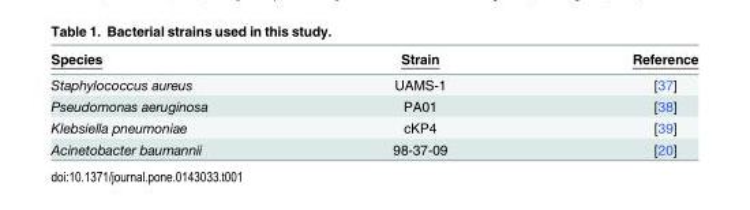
<table><thead><tr><td>Species</td><td>Strain</td><td>Reference</td></tr></thead><tbody><tr><td>Staphylococcus aureus</td><td>UAMS-1</td><td>[37]</td></tr><tr><td>Pseudomonas aeruginosa</td><td>PA01</td><td>[38]</td></tr><tr><td>Klebsiella pneumoniae</td><td>cKP4</td><td>[39]</td></tr><tr><td>Acinetobacter baumannii</td><td>98-37-09</td><td>[20]</td></tr></tbody></table>